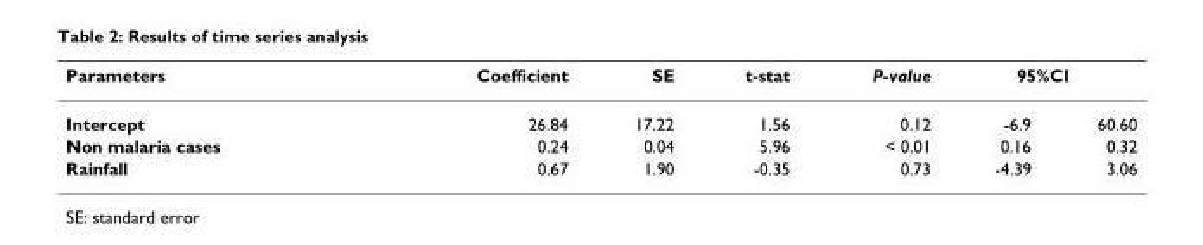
<table><thead><tr><td rowspan="2">Parameters Intercept</td><td rowspan="2">Coefficient 26.84</td><td rowspan="2">SE 17.22</td><td rowspan="2">t-stat 1.56</td><td rowspan="2">P-value 0.12</td><td colspan="2">95%CI</td></tr><tr><td>-6.9</td><td>60.60</td></tr></thead><tbody><tr><td>Non malaria cases</td><td>0.24</td><td>0.04</td><td>5.96</td><td>&lt; 0.01</td><td>0.16</td><td>0.32</td></tr><tr><td>Rainfall</td><td>0.67</td><td>1.90</td><td>-0.35</td><td>0.73</td><td>-4.39</td><td>3.06</td></tr></tbody></table>